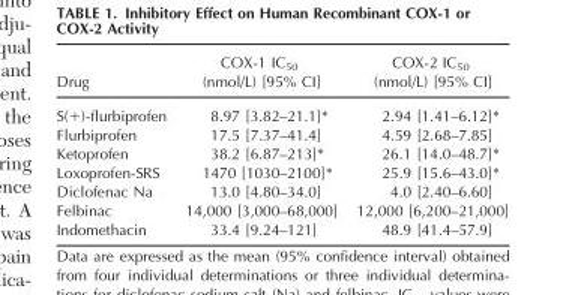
<table><thead><tr><td>Drug</td><td>COX-1 IC<sub>50</sub> (nmol/L) [95% CI]</td><td>COX-2 IC<sub>50</sub> (nmol/L) [95% CI]</td></tr></thead><tbody><tr><td>S(+)-flurbiprofen</td><td>8.97 [3.82–21.1]*</td><td>2.94 [1.41–6.12]*</td></tr><tr><td>Flurbiprofen</td><td>17.5 [7.37–41.4]</td><td>4.59 [2.68–7.85]</td></tr><tr><td>Ketoprofen</td><td>38.2 [6.87–213]*</td><td>26.1 [14.0–48.7]*</td></tr><tr><td>Loxoprofen-SRS</td><td>1470 [1030–2100]*</td><td>25.9 [15.6–43.0]*</td></tr><tr><td>Diclofenac Na</td><td>13.0 [4.80–34.0]</td><td>4.0 [2.40–6.60]</td></tr><tr><td>Felbinac</td><td>14,000 [3,000–68,000]</td><td>12,000 [6,200–21,000]</td></tr><tr><td>Indomethacin</td><td>33.4 [9.24–121]</td><td>48.9 [41.4–57.9]</td></tr></tbody></table>